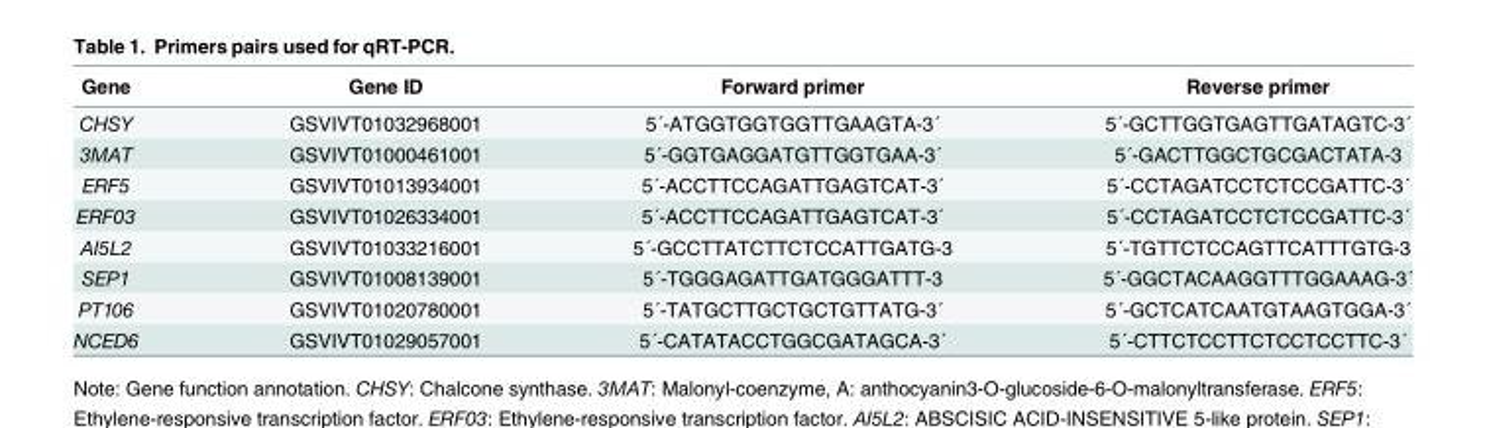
<table><thead><tr><td>Gene</td><td>Gene ID</td><td>Forward primer</td><td>Reverse primer</td></tr></thead><tbody><tr><td>CHSY</td><td>GSVIVT01032968001</td><td>5´-ATGGTGGTGGTTGAAGTA-3´</td><td>5´-GCTTGGTGAGTTGATAGTC-3´</td></tr><tr><td>3MAT</td><td>GSVIVT01000461001</td><td>5´-GGTGAGGATGTTGGTGAA-3´</td><td>5´-GACTTGGCTGCGACTATA-3</td></tr><tr><td>ERF5</td><td>GSVIVT01013934001</td><td>5´-ACCTTCCAGATTGAGTCAT-3´</td><td>5´-CCTAGATCCTCTCCGATTC-3´</td></tr><tr><td>ERF03</td><td>GSVIVT01026334001</td><td>5´-ACCTTCCAGATTGAGTCAT-3´</td><td>5´-CCTAGATCCTCTCCGATTC-3´</td></tr><tr><td>AI5L2</td><td>GSVIVT01033216001</td><td>5´-GCCTTATCTTCTCCATTGATG-3</td><td>5´-TGTTCTCCAGTTCATTTGTG-3</td></tr><tr><td>SEP1</td><td>GSVIVT01008139001</td><td>5´-TGGGAGATTGATGGGATTT-3</td><td>5´-GGCTACAAGGTTTGGAAAG-3´</td></tr><tr><td>PT106</td><td>GSVIVT01020780001</td><td>5´-TATGCTTGCTGCTGTTATG-3´</td><td>5´-GCTCATCAATGTAAGTGGA-3´</td></tr><tr><td>NCED6</td><td>GSVIVT01029057001</td><td>5´-CATATACCTGGCGATAGCA-3´</td><td>5´-CTTCTCCTTCTCCTCCTTC-3´</td></tr></tbody></table>